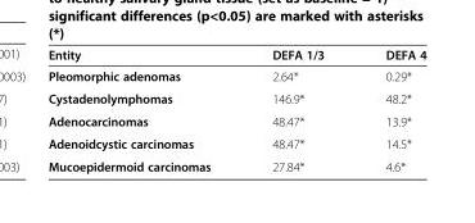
<table><thead><tr><td>Entity</td><td>DEFA 1/3</td><td>DEFA 4</td></tr></thead><tbody><tr><td>Pleomorphic adenomas</td><td>2.64*</td><td>0.29*</td></tr><tr><td>Cystadenolymphomas</td><td>146.9*</td><td>48.2*</td></tr><tr><td>Adenocarcinomas</td><td>48.47*</td><td>13.9*</td></tr><tr><td>Adenoidcystic carcinomas</td><td>48.47*</td><td>14.5*</td></tr><tr><td>Mucoepidermoid carcinomas</td><td>27.84*</td><td>4.6*</td></tr></tbody></table>